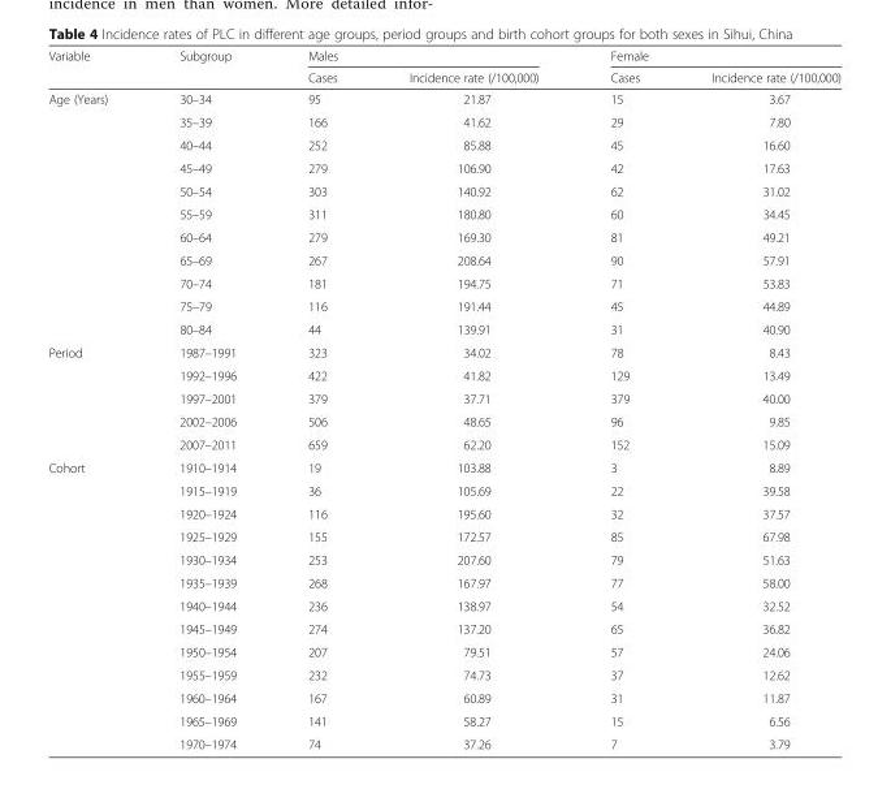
<table><thead><tr><td rowspan="2">Variable</td><td rowspan="2">Subgroup</td><td colspan="2">Males</td><td colspan="2">Female</td></tr><tr><td>Cases</td><td>Incidence rate (/100,000)</td><td>Cases</td><td>Incidence rate (/100,000)</td></tr></thead><tbody><tr><td rowspan="11">Age (Years)</td><td>30–34</td><td>95</td><td>21.87</td><td>15</td><td>3.67</td></tr><tr><td>35–39</td><td>166</td><td>41.62</td><td>29</td><td>7.80</td></tr><tr><td>40–44</td><td>252</td><td>85.88</td><td>45</td><td>16.60</td></tr><tr><td>45–49</td><td>279</td><td>106.90</td><td>42</td><td>17.63</td></tr><tr><td>50–54</td><td>303</td><td>140.92</td><td>62</td><td>31.02</td></tr><tr><td>55–59</td><td>311</td><td>180.80</td><td>60</td><td>34.45</td></tr><tr><td>60–64</td><td>279</td><td>169.30</td><td>81</td><td>49.21</td></tr><tr><td>65–69</td><td>267</td><td>208.64</td><td>90</td><td>57.91</td></tr><tr><td>70–74</td><td>181</td><td>194.75</td><td>71</td><td>53.83</td></tr><tr><td>75–79</td><td>116</td><td>191.44</td><td>45</td><td>44.89</td></tr><tr><td>80–84</td><td>44</td><td>139.91</td><td>31</td><td>40.90</td></tr><tr><td rowspan="5">Period</td><td>1987–1991</td><td>323</td><td>34.02</td><td>78</td><td>8.43</td></tr><tr><td>1992–1996</td><td>422</td><td>41.82</td><td>129</td><td>13.49</td></tr><tr><td>1997–2001</td><td>379</td><td>37.71</td><td>379</td><td>40.00</td></tr><tr><td>2002–2006</td><td>506</td><td>48.65</td><td>96</td><td>9.85</td></tr><tr><td>2007–2011</td><td>659</td><td>62.20</td><td>152</td><td>15.09</td></tr><tr><td rowspan="13">Cohort</td><td>1910–1914</td><td>19</td><td>103.88</td><td>3</td><td>8.89</td></tr><tr><td>1915–1919</td><td>36</td><td>105.69</td><td>22</td><td>39.58</td></tr><tr><td>1920–1924</td><td>116</td><td>195.60</td><td>32</td><td>37.57</td></tr><tr><td>1925–1929</td><td>155</td><td>172.57</td><td>85</td><td>67.98</td></tr><tr><td>1930–1934</td><td>253</td><td>207.60</td><td>79</td><td>51.63</td></tr><tr><td>1935–1939</td><td>268</td><td>167.97</td><td>77</td><td>58.00</td></tr><tr><td>1940–1944</td><td>236</td><td>138.97</td><td>54</td><td>32.52</td></tr><tr><td>1945–1949</td><td>274</td><td>137.20</td><td>65</td><td>36.82</td></tr><tr><td>1950–1954</td><td>207</td><td>79.51</td><td>57</td><td>24.06</td></tr><tr><td>1955–1959</td><td>232</td><td>74.73</td><td>37</td><td>12.62</td></tr><tr><td>1960–1964</td><td>167</td><td>60.89</td><td>31</td><td>11.87</td></tr><tr><td>1965–1969</td><td>141</td><td>58.27</td><td>15</td><td>6.56</td></tr><tr><td>1970–1974</td><td>74</td><td>37.26</td><td>7</td><td>3.79</td></tr></tbody></table>